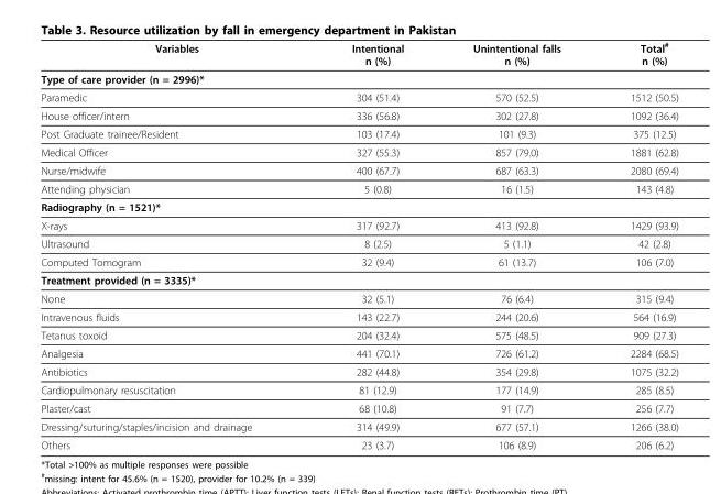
<table><thead><tr><td>Variables</td><td>Intentional n (%)</td><td>Unintentional falls n (%)</td><td>Total<sup>#</sup> n (%)</td></tr></thead><tbody><tr><td colspan="4">Type of care provider (n = 2996)*</td></tr><tr><td>Paramedic</td><td>304 (51.4)</td><td>570 (52.5)</td><td>1512 (50.5)</td></tr><tr><td>House officer/intern</td><td>336 (56.8)</td><td>302 (27.8)</td><td>1092 (36.4)</td></tr><tr><td>Post Graduate trainee/Resident</td><td>103 (17.4)</td><td>101 (9.3)</td><td>375 (12.5)</td></tr><tr><td>Medical Officer</td><td>327 (55.3)</td><td>857 (79.0)</td><td>1881 (62.8)</td></tr><tr><td>Nurse/midwife</td><td>400 (67.7)</td><td>687 (63.3)</td><td>2080 (69.4)</td></tr><tr><td>Attending physician</td><td>5 (0.8)</td><td>16 (1.5)</td><td>143 (4.8)</td></tr><tr><td colspan="4">Radiography (n = 1521)*</td></tr><tr><td>X-rays</td><td>317 (92.7)</td><td>413 (92.8)</td><td>1429 (93.9)</td></tr><tr><td>Ultrasound</td><td>8 (2.5)</td><td>5 (1.1)</td><td>42 (2.8)</td></tr><tr><td>Computed Tomogram</td><td>32 (9.4)</td><td>61 (13.7)</td><td>106 (7.0)</td></tr><tr><td colspan="4">Treatment provided (n = 3335)*</td></tr><tr><td>None</td><td>32 (5.1)</td><td>76 (6.4)</td><td>315 (9.4)</td></tr><tr><td>Intravenous fluids</td><td>143 (22.7)</td><td>244 (20.6)</td><td>564 (16.9)</td></tr><tr><td>Tetanus toxoid</td><td>204 (32.4)</td><td>575 (48.5)</td><td>909 (27.3)</td></tr><tr><td>Analgesia</td><td>441 (70.1)</td><td>726 (61.2)</td><td>2284 (68.5)</td></tr><tr><td>Antibiotics</td><td>282 (44.8)</td><td>354 (29.8)</td><td>1075 (32.2)</td></tr><tr><td>Cardiopulmonary resuscitation</td><td>81 (12.9)</td><td>177 (14.9)</td><td>285 (8.5)</td></tr><tr><td>Plaster/cast</td><td>68 (10.8)</td><td>91 (7.7)</td><td>256 (7.7)</td></tr><tr><td>Dressing/suturing/staples/incision and drainage</td><td>314 (49.9)</td><td>677 (57.1)</td><td>1266 (38.0)</td></tr><tr><td>Others</td><td>23 (3.7)</td><td>106 (8.9)</td><td>206 (6.2)</td></tr></tbody></table>